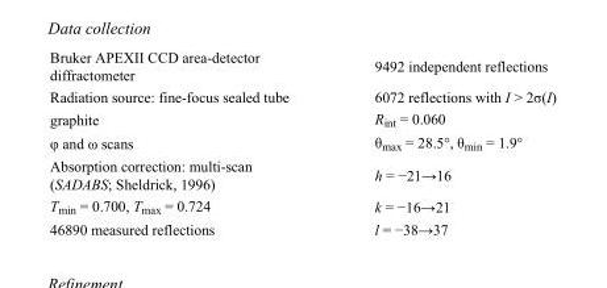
<table><tbody><tr><td>Bruker APEXII CCD area-detector diffractometer</td><td>9492 independent reflections</td></tr><tr><td>Radiation source: fine-focus sealed tube</td><td>6072 reflections with I &gt; 2σ(I)</td></tr><tr><td>graphite</td><td>R<sub>int</sub> = 0.060</td></tr><tr><td>φ and ω scans</td><td>θ<sub>max</sub> = 28.5°, θ<sub>min</sub> = 1.9°</td></tr><tr><td>Absorption correction: multi-scan (SADABS; Sheldrick, 1996)</td><td>h = −21→16</td></tr><tr><td>T<sub>min</sub> = 0.700, T<sub>max</sub> = 0.724</td><td>k = −16→21</td></tr><tr><td>46890 measured reflections</td><td>l = −38→37</td></tr></tbody></table>